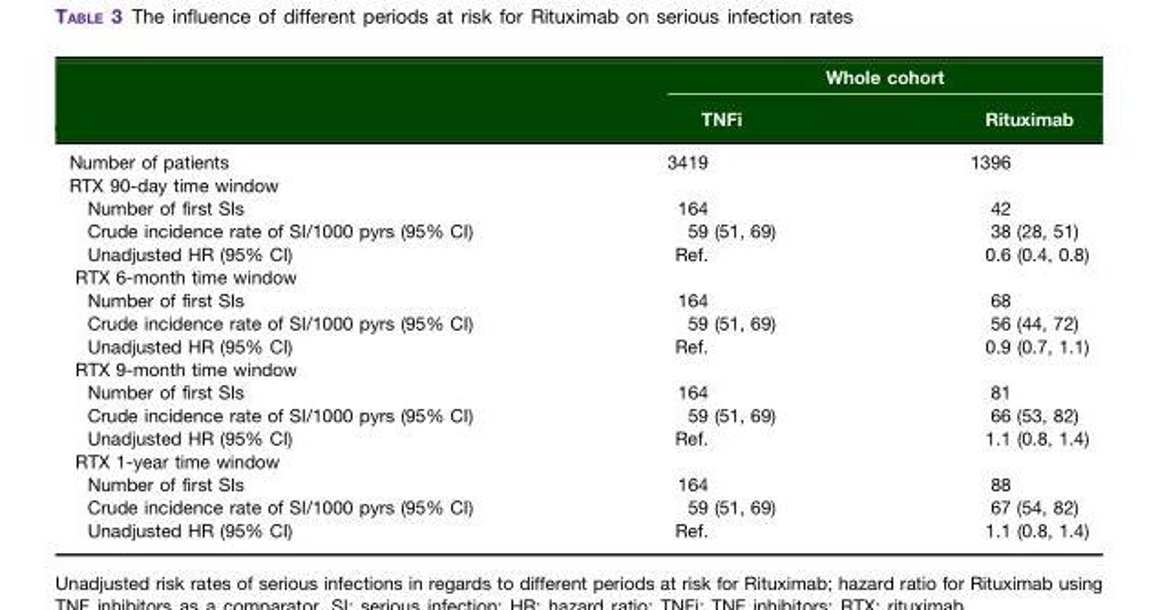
<table><thead><tr><td rowspan="2"></td><td colspan="2">Whole cohort</td></tr><tr><td>TNFi</td><td>Rituximab</td></tr></thead><tbody><tr><td>Number of patients</td><td>3419</td><td>1396</td></tr><tr><td colspan="3">RTX 90-day time window</td></tr><tr><td>Number of first SIs</td><td>164</td><td>42</td></tr><tr><td>Crude incidence rate of SI/1000 pyrs (95% CI)</td><td>59 (51, 69)</td><td>38 (28, 51)</td></tr><tr><td>Unadjusted HR (95% CI)</td><td>Ref.</td><td>0.6 (0.4, 0.8)</td></tr><tr><td colspan="3">RTX 6-month time window</td></tr><tr><td>Number of first SIs</td><td>164</td><td>68</td></tr><tr><td>Crude incidence rate of SI/1000 pyrs (95% CI)</td><td>59 (51, 69)</td><td>56 (44, 72)</td></tr><tr><td>Unadjusted HR (95% CI)</td><td>Ref.</td><td>0.9 (0.7, 1.1)</td></tr><tr><td colspan="3">RTX 9-month time window</td></tr><tr><td>Number of first SIs</td><td>164</td><td>81</td></tr><tr><td>Crude incidence rate of SI/1000 pyrs (95% CI)</td><td>59 (51, 69)</td><td>66 (53, 82)</td></tr><tr><td>Unadjusted HR (95% CI)</td><td>Ref.</td><td>1.1 (0.8, 1.4)</td></tr><tr><td colspan="3">RTX 1-year time window</td></tr><tr><td>Number of first SIs</td><td>164</td><td>88</td></tr><tr><td>Crude incidence rate of SI/1000 pyrs (95% CI)</td><td>59 (51, 69)</td><td>67 (54, 82)</td></tr><tr><td>Unadjusted HR (95% CI)</td><td>Ref.</td><td>1.1 (0.8, 1.4)</td></tr></tbody></table>